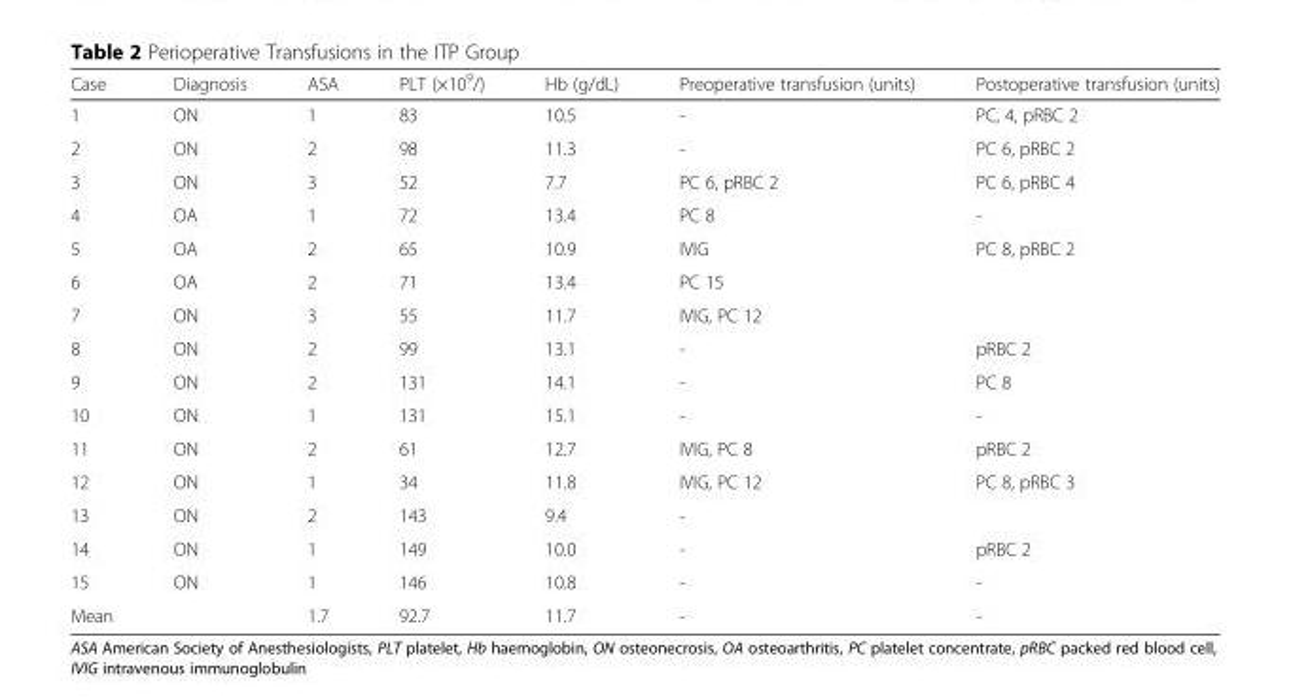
<table><thead><tr><td>Case</td><td>Diagnosis</td><td>ASA</td><td>PLT (×10<sup>9</sup>/)</td><td>Hb (g/dL)</td><td>Preoperative transfusion (units)</td><td>Postoperative transfusion (units)</td></tr></thead><tbody><tr><td>1</td><td>ON</td><td>1</td><td>83</td><td>10.5</td><td>-</td><td>PC, 4, pRBC 2</td></tr><tr><td>2</td><td>ON</td><td>2</td><td>98</td><td>11.3</td><td>-</td><td>PC 6, pRBC 2</td></tr><tr><td>3</td><td>ON</td><td>3</td><td>52</td><td>7.7</td><td>PC 6, pRBC 2</td><td>PC 6, pRBC 4</td></tr><tr><td>4</td><td>OA</td><td>1</td><td>72</td><td>13.4</td><td>PC 8</td><td>-</td></tr><tr><td>5</td><td>OA</td><td>2</td><td>65</td><td>10.9</td><td>IVIG</td><td>PC 8, pRBC 2</td></tr><tr><td>6</td><td>OA</td><td>2</td><td>71</td><td>13.4</td><td>PC 15</td><td></td></tr><tr><td>7</td><td>ON</td><td>3</td><td>55</td><td>11.7</td><td>IVIG, PC 12</td><td></td></tr><tr><td>8</td><td>ON</td><td>2</td><td>99</td><td>13.1</td><td>-</td><td>pRBC 2</td></tr><tr><td>9</td><td>ON</td><td>2</td><td>131</td><td>14.1</td><td>-</td><td>PC 8</td></tr><tr><td>10</td><td>ON</td><td>1</td><td>131</td><td>15.1</td><td>-</td><td>-</td></tr><tr><td>11</td><td>ON</td><td>2</td><td>61</td><td>12.7</td><td>IVIG, PC 8</td><td>pRBC 2</td></tr><tr><td>12</td><td>ON</td><td>1</td><td>34</td><td>11.8</td><td>IVIG, PC 12</td><td>PC 8, pRBC 3</td></tr><tr><td>13</td><td>ON</td><td>2</td><td>143</td><td>9.4</td><td>-</td><td></td></tr><tr><td>14</td><td>ON</td><td>1</td><td>149</td><td>10.0</td><td>-</td><td>pRBC 2</td></tr><tr><td>15</td><td>ON</td><td>1</td><td>146</td><td>10.8</td><td>-</td><td>-</td></tr><tr><td>Mean</td><td></td><td>1.7</td><td>92.7</td><td>11.7</td><td>-</td><td>-</td></tr></tbody></table>